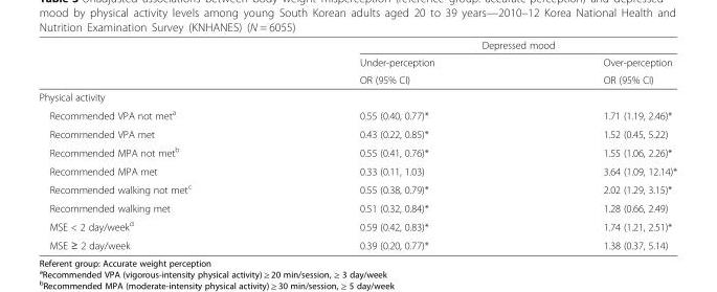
<table><thead><tr><td rowspan="3"></td><td colspan="2">Depressed mood</td></tr><tr><td rowspan="2">Under-perception OR (95% CI)</td><td rowspan="2">Over-perception OR (95% CI)</td></tr><tr></tr></thead><tbody><tr><td colspan="3">Physical activity</td></tr><tr><td>Recommended VPA not met<sup>a</sup></td><td>0.55 (0.40, 0.77)*</td><td>1.71 (1.19, 2.46)*</td></tr><tr><td>Recommended VPA met</td><td>0.43 (0.22, 0.85)*</td><td>1.52 (0.45, 5.22)</td></tr><tr><td>Recommended MPA not met<sup>b</sup></td><td>0.55 (0.41, 0.76)*</td><td>1.55 (1.06, 2.26)*</td></tr><tr><td>Recommended MPA met</td><td>0.33 (0.11, 1.03)</td><td>3.64 (1.09, 12.14)*</td></tr><tr><td>Recommended walking not met<sup>c</sup></td><td>0.55 (0.38, 0.79)*</td><td>2.02 (1.29, 3.15)*</td></tr><tr><td>Recommended walking met</td><td>0.51 (0.32, 0.84)*</td><td>1.28 (0.66, 2.49)</td></tr><tr><td>MSE &lt; 2 day/week<sup>d</sup></td><td>0.59 (0.42, 0.83)*</td><td>1.74 (1.21, 2.51)*</td></tr><tr><td>MSE ≥ 2 day/week</td><td>0.39 (0.20, 0.77)*</td><td>1.38 (0.37, 5.14)</td></tr></tbody></table>